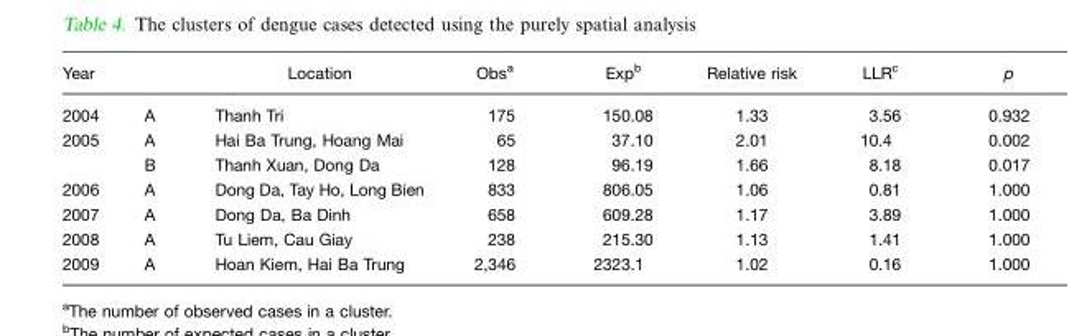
<table><thead><tr><td>Year</td><td></td><td>Location</td><td>Obs<sup>a</sup></td><td>Exp<sup>b</sup></td><td>Relative risk</td><td>LLR<sup>c</sup></td><td>p</td></tr></thead><tbody><tr><td>2004</td><td>A</td><td>Thanh Tri</td><td>175</td><td>150.08</td><td>1.33</td><td>3.56</td><td>0.932</td></tr><tr><td rowspan="2">2005</td><td>A</td><td>Hai Ba Trung, Hoang Mai</td><td>65</td><td>37.10</td><td>2.01</td><td>10.4</td><td>0.002</td></tr><tr><td>B</td><td>Thanh Xuan, Dong Da</td><td>128</td><td>96.19</td><td>1.66</td><td>8.18</td><td>0.017</td></tr><tr><td>2006</td><td>A</td><td>Dong Da, Tay Ho, Long Bien</td><td>833</td><td>806.05</td><td>1.06</td><td>0.81</td><td>1.000</td></tr><tr><td>2007</td><td>A</td><td>Dong Da, Ba Dinh</td><td>658</td><td>609.28</td><td>1.17</td><td>3.89</td><td>1.000</td></tr><tr><td>2008</td><td>A</td><td>Tu Liem, Cau Giay</td><td>238</td><td>215.30</td><td>1.13</td><td>1.41</td><td>1.000</td></tr><tr><td>2009</td><td>A</td><td>Hoan Kiem, Hai Ba Trung</td><td>2,346</td><td>2323.1</td><td>1.02</td><td>0.16</td><td>1.000</td></tr></tbody></table>